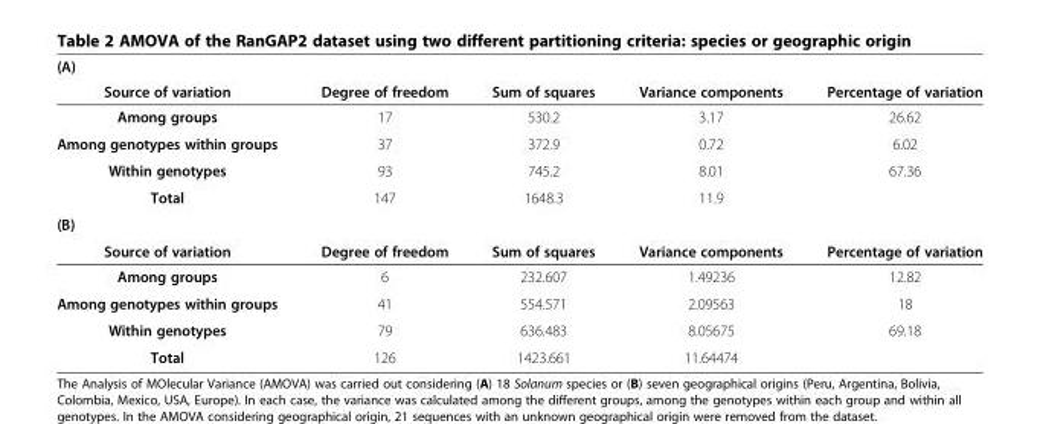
<table><thead><tr><td rowspan="2">(A) Source of variation</td><td rowspan="2">Degree of freedom</td><td rowspan="2">Sum of squares</td><td rowspan="2">Variance components</td><td rowspan="2">Percentage of variation</td></tr><tr></tr></thead><tbody><tr><td>Among groups</td><td>17</td><td>530.2</td><td>3.17</td><td>26.62</td></tr><tr><td>Among genotypes within groups</td><td>37</td><td>372.9</td><td>0.72</td><td>6.02</td></tr><tr><td>Within genotypes</td><td>93</td><td>745.2</td><td>8.01</td><td>67.36</td></tr><tr><td>Total</td><td>147</td><td>1648.3</td><td>11.9</td><td></td></tr><tr><td colspan="5">(B)</td></tr><tr><td>Source of variation</td><td>Degree of freedom</td><td>Sum of squares</td><td>Variance components</td><td>Percentage of variation</td></tr><tr><td>Among groups</td><td>6</td><td>232.607</td><td>1.49236</td><td>12.82</td></tr><tr><td>Among genotypes within groups</td><td>41</td><td>554.571</td><td>2.09563</td><td>18</td></tr><tr><td>Within genotypes</td><td>79</td><td>636.483</td><td>8.05675</td><td>69.18</td></tr><tr><td>Total</td><td>126</td><td>1423.661</td><td>11.64474</td><td></td></tr></tbody></table>